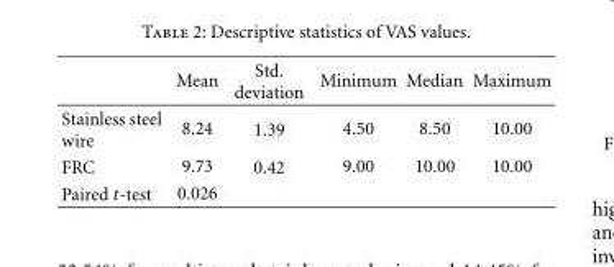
<table><thead><tr><td></td><td>Mean</td><td>Std. deviation</td><td>Minimum</td><td>Median</td><td>Maximum</td></tr></thead><tbody><tr><td>Stainless steel wire</td><td>8.24</td><td>1.39</td><td>4.50</td><td>8.50</td><td>10.00</td></tr><tr><td>FRC</td><td>9.73</td><td>0.42</td><td>9.00</td><td>10.00</td><td>10.00</td></tr><tr><td>Paired t-test</td><td>0.026</td><td></td><td></td><td></td><td></td></tr></tbody></table>